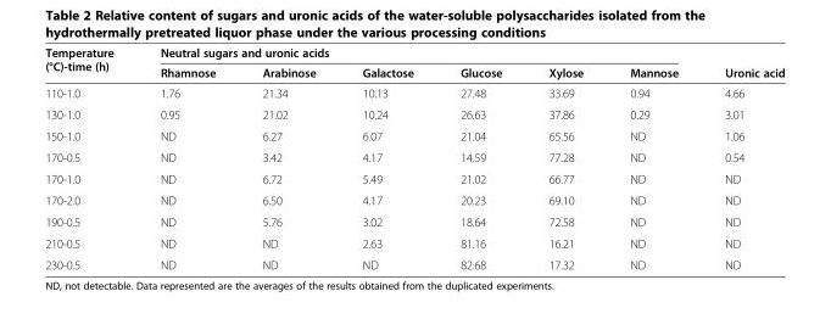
<table><thead><tr><td rowspan="2">Temperature (°C)-time (h)</td><td colspan="6">Neutral sugars and uronic acids</td><td rowspan="2">Uronic acid</td></tr><tr><td>Rhamnose</td><td>Arabinose</td><td>Galactose</td><td>Glucose</td><td>Xylose</td><td>Mannose</td></tr></thead><tbody><tr><td>110-1.0</td><td>1.76</td><td>21.34</td><td>10.13</td><td>27.48</td><td>33.69</td><td>0.94</td><td>4.66</td></tr><tr><td>130-1.0</td><td>0.95</td><td>21.02</td><td>10.24</td><td>26.63</td><td>37.86</td><td>0.29</td><td>3.01</td></tr><tr><td>150-1.0</td><td>ND</td><td>6.27</td><td>6.07</td><td>21.04</td><td>65.56</td><td>ND</td><td>1.06</td></tr><tr><td>170-0.5</td><td>ND</td><td>3.42</td><td>4.17</td><td>14.59</td><td>77.28</td><td>ND</td><td>0.54</td></tr><tr><td>170-1.0</td><td>ND</td><td>6.72</td><td>5.49</td><td>21.02</td><td>66.77</td><td>ND</td><td>ND</td></tr><tr><td>170-2.0</td><td>ND</td><td>6.50</td><td>4.17</td><td>20.23</td><td>69.10</td><td>ND</td><td>ND</td></tr><tr><td>190-0.5</td><td>ND</td><td>5.76</td><td>3.02</td><td>18.64</td><td>72.58</td><td>ND</td><td>ND</td></tr><tr><td>210-0.5</td><td>ND</td><td>ND</td><td>2.63</td><td>81.16</td><td>16.21</td><td>ND</td><td>ND</td></tr><tr><td>230-0.5</td><td>ND</td><td>ND</td><td>ND</td><td>82.68</td><td>17.32</td><td>ND</td><td>ND</td></tr></tbody></table>